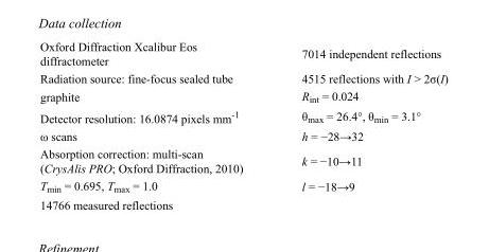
<table><tbody><tr><td>Oxford Diffraction Xcalibur Eos diffractometer</td><td>7014 independent reflections</td></tr><tr><td>Radiation source: fine-focus sealed tube</td><td>4515 reflections with I &gt; 2σ(I)</td></tr><tr><td>graphite</td><td>R<sub>int</sub> = 0.024</td></tr><tr><td>Detector resolution: 16.0874 pixels mm<sup>-1</sup></td><td>θ<sub>max</sub> = 26.4°, θ<sub>min</sub> = 3.1°</td></tr><tr><td>ω scans</td><td>h = −28→32</td></tr><tr><td>Absorption correction: multi-scan (CrysAlis PRO; Oxford Diffraction, 2010)</td><td>k = −10→11</td></tr><tr><td>T<sub>min</sub> = 0.695, T<sub>max</sub> = 1.0</td><td>l = −18→9</td></tr><tr><td>14766 measured reflections</td><td></td></tr></tbody></table>